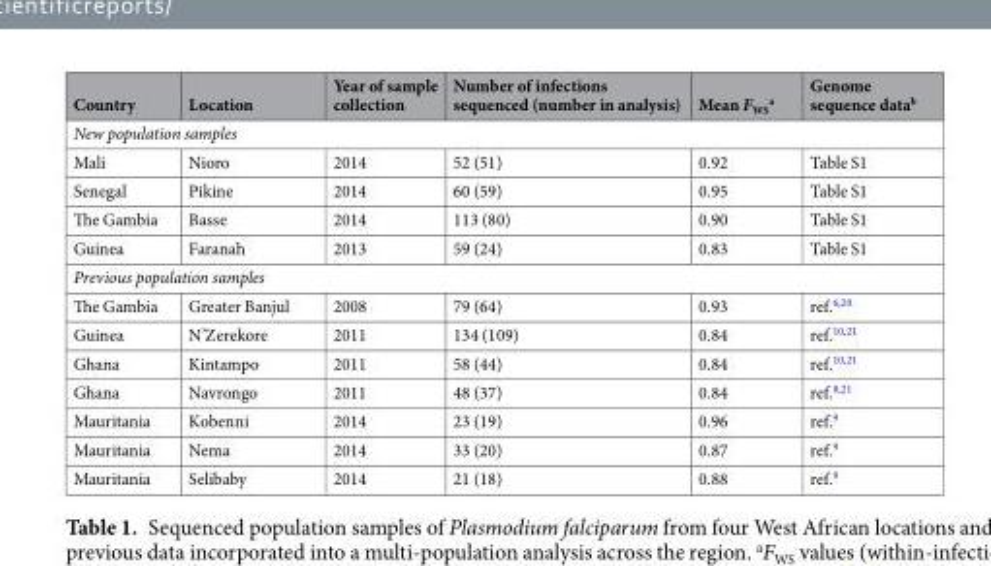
<table><thead><tr><td>Country</td><td>Location</td><td>Year of sample collection</td><td>Number of infections sequenced (number in analysis)</td><td>Mean F<sub>WS</sub> <sup>a</sup></td><td>Genome sequence data<sup>b</sup></td></tr></thead><tbody><tr><td colspan="6">New population samples</td></tr><tr><td>Mali</td><td>Nioro</td><td>2014</td><td>52 (51)</td><td>0.92</td><td>Table S1</td></tr><tr><td>Senegal</td><td>Pikine</td><td>2014</td><td>60 (59)</td><td>0.95</td><td>Table S1</td></tr><tr><td>The Gambia</td><td>Basse</td><td>2014</td><td>113 (80)</td><td>0.90</td><td>Table S1</td></tr><tr><td>Guinea</td><td>Faranah</td><td>2013</td><td>59 (24)</td><td>0.83</td><td>Table S1</td></tr><tr><td colspan="6">Previous population samples</td></tr><tr><td>The Gambia</td><td>Greater Banjul</td><td>2008</td><td>79 (64)</td><td>0.93</td><td>ref.<sup>6,20</sup></td></tr><tr><td>Guinea</td><td>N’Zerekore</td><td>2011</td><td>134 (109)</td><td>0.84</td><td>ref.<sup>10,21</sup></td></tr><tr><td>Ghana</td><td>Kintampo</td><td>2011</td><td>58 (44)</td><td>0.84</td><td>ref.<sup>10,21</sup></td></tr><tr><td>Ghana</td><td>Navrongo</td><td>2011</td><td>48 (37)</td><td>0.84</td><td>ref.<sup>8,21</sup></td></tr><tr><td>Mauritania</td><td>Kobenni</td><td>2014</td><td>23 (19)</td><td>0.96</td><td>ref.<sup>9</sup></td></tr><tr><td>Mauritania</td><td>Nema</td><td>2014</td><td>33 (20)</td><td>0.87</td><td>ref.<sup>9</sup></td></tr><tr><td>Mauritania</td><td>Selibaby</td><td>2014</td><td>21 (18)</td><td>0.88</td><td>ref.<sup>9</sup></td></tr></tbody></table>